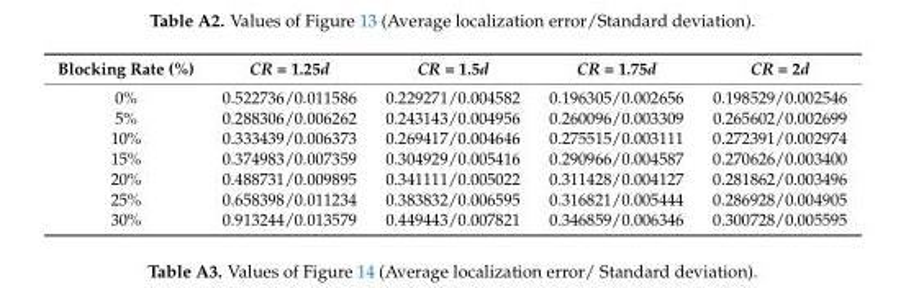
<table><thead><tr><td>Blocking Rate (%)</td><td>CR = 1.25d</td><td>CR = 1.5d</td><td>CR = 1.75d</td><td>CR = 2d</td></tr></thead><tbody><tr><td>0%</td><td>0.522736/0.011586</td><td>0.229271/0.004582</td><td>0.196305/0.002656</td><td>0.198529/0.002546</td></tr><tr><td>5%</td><td>0.288306/0.006262</td><td>0.243143/0.004956</td><td>0.260096/0.003309</td><td>0.265602/0.002699</td></tr><tr><td>10%</td><td>0.333439/0.006373</td><td>0.269417/0.004646</td><td>0.275515/0.003111</td><td>0.272391/0.002974</td></tr><tr><td>15%</td><td>0.374983/0.007359</td><td>0.304929/0.005416</td><td>0.290966/0.004587</td><td>0.270626/0.003400</td></tr><tr><td>20%</td><td>0.488731/0.009895</td><td>0.341111/0.005022</td><td>0.311428/0.004127</td><td>0.281862/0.003496</td></tr><tr><td>25%</td><td>0.658398/0.011234</td><td>0.383832/0.006595</td><td>0.316821/0.005444</td><td>0.286928/0.004905</td></tr><tr><td>30%</td><td>0.913244/0.013579</td><td>0.449443/0.007821</td><td>0.346859/0.006346</td><td>0.300728/0.005595</td></tr></tbody></table>